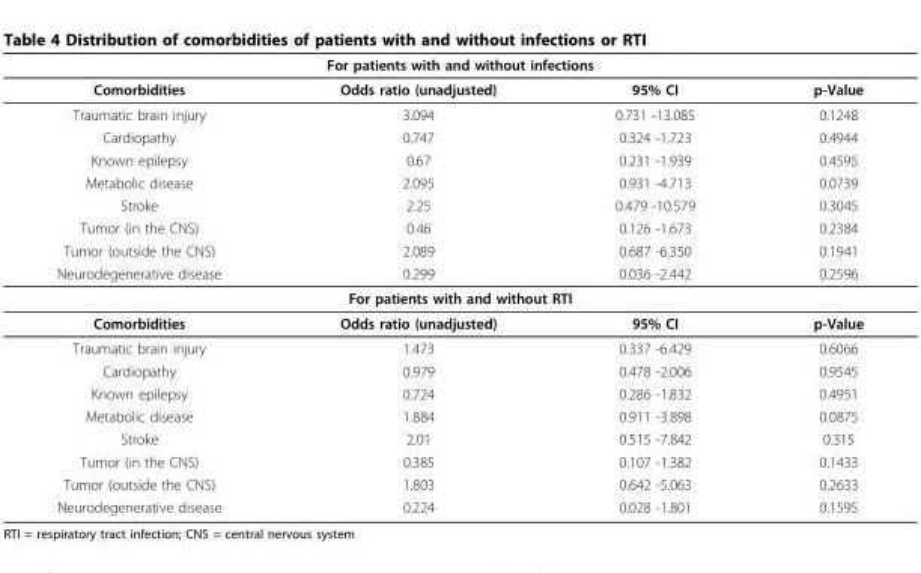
<table><thead><tr><td colspan="4">For patients with and without infections</td></tr><tr><td>Comorbidities</td><td>Odds ratio (unadjusted)</td><td>95% CI</td><td>p-Value</td></tr></thead><tbody><tr><td>Traumatic brain injury</td><td>3.094</td><td>0.731 -13.085</td><td>0.1248</td></tr><tr><td>Cardiopathy</td><td>0.747</td><td>0.324 -1.723</td><td>0.4944</td></tr><tr><td>Known epilepsy</td><td>0.67</td><td>0.231 -1.939</td><td>0.4595</td></tr><tr><td>Metabolic disease</td><td>2.095</td><td>0.931 -4.713</td><td>0.0739</td></tr><tr><td>Stroke</td><td>2.25</td><td>0.479 -10.579</td><td>0.3045</td></tr><tr><td>Tumor (in the CNS)</td><td>0.46</td><td>0.126 -1.673</td><td>0.2384</td></tr><tr><td>Tumor (outside the CNS)</td><td>2.089</td><td>0.687 -6.350</td><td>0.1941</td></tr><tr><td>Neurodegenerative disease</td><td>0.299</td><td>0.036 -2.442</td><td>0.2596</td></tr><tr><td colspan="4">For patients with and without RTI</td></tr><tr><td>Comorbidities</td><td>Odds ratio (unadjusted)</td><td>95% CI</td><td>p-Value</td></tr><tr><td>Traumatic brain injury</td><td>1.473</td><td>0.337 -6.429</td><td>0.6066</td></tr><tr><td>Cardiopathy</td><td>0.979</td><td>0.478 -2.006</td><td>0.9545</td></tr><tr><td>Known epilepsy</td><td>0.724</td><td>0.286 -1.832</td><td>0.4951</td></tr><tr><td>Metabolic disease</td><td>1.884</td><td>0.911 -3.898</td><td>0.0875</td></tr><tr><td>Stroke</td><td>2.01</td><td>0.515 -7.842</td><td>0.315</td></tr><tr><td>Tumor (in the CNS)</td><td>0.385</td><td>0.107 -1.382</td><td>0.1433</td></tr><tr><td>Tumor (outside the CNS)</td><td>1.803</td><td>0.642 -5.063</td><td>0.2633</td></tr><tr><td>Neurodegenerative disease</td><td>0.224</td><td>0.028 -1.801</td><td>0.1595</td></tr></tbody></table>